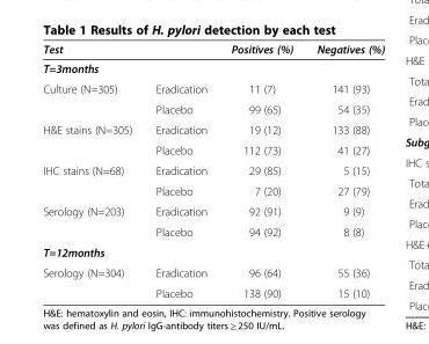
<table><thead><tr><td>Test</td><td></td><td>Positives (%)</td><td>Negatives (%)</td></tr></thead><tbody><tr><td colspan="4">T=3months</td></tr><tr><td rowspan="2">Culture (N=305)</td><td>Eradication</td><td>11 (7)</td><td>141 (93)</td></tr><tr><td>Placebo</td><td>99 (65)</td><td>54 (35)</td></tr><tr><td rowspan="2">H&amp;E stains (N=305)</td><td>Eradication</td><td>19 (12)</td><td>133 (88)</td></tr><tr><td>Placebo</td><td>112 (73)</td><td>41 (27)</td></tr><tr><td rowspan="2">IHC stains (N=68)</td><td>Eradication</td><td>29 (85)</td><td>5 (15)</td></tr><tr><td>Placebo</td><td>7 (20)</td><td>27 (79)</td></tr><tr><td rowspan="2">Serology (N=203)</td><td>Eradication</td><td>92 (91)</td><td>9 (9)</td></tr><tr><td>Placebo</td><td>94 (92)</td><td>8 (8)</td></tr><tr><td colspan="4">T=12months</td></tr><tr><td rowspan="2">Serology (N=304)</td><td>Eradication</td><td>96 (64)</td><td>55 (36)</td></tr><tr><td>Placebo</td><td>138 (90)</td><td>15 (10)</td></tr></tbody></table>